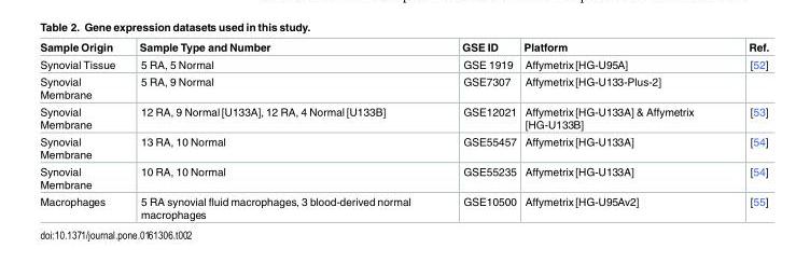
<table><thead><tr><td>Sample Origin</td><td>Sample Type and Number</td><td>GSE ID</td><td>Platform</td><td>Ref.</td></tr></thead><tbody><tr><td>Synovial Tissue</td><td>5 RA, 5 Normal</td><td>GSE 1919</td><td>Affymetrix [HG-U95A]</td><td>[52]</td></tr><tr><td>Synovial Membrane</td><td>5 RA, 9 Normal</td><td>GSE7307</td><td>Affymetrix [HG-U133-Plus-2]</td><td></td></tr><tr><td>Synovial Membrane</td><td>12 RA, 9 Normal [U133A], 12 RA, 4 Normal [U133B]</td><td>GSE12021</td><td>Affymetrix [HG-U133A] &amp; Affymetrix [HG-U133B]</td><td>[53]</td></tr><tr><td>Synovial Membrane</td><td>13 RA, 10 Normal</td><td>GSE55457</td><td>Affymetrix [HG-U133A]</td><td>[54]</td></tr><tr><td>Synovial Membrane</td><td>10 RA, 10 Normal</td><td>GSE55235</td><td>Affymetrix [HG-U133A]</td><td>[54]</td></tr><tr><td>Macrophages</td><td>5 RA synovial fluid macrophages, 3 blood-derived normal macrophages</td><td>GSE10500</td><td>Affymetrix [HG-U95Av2]</td><td>[55]</td></tr></tbody></table>